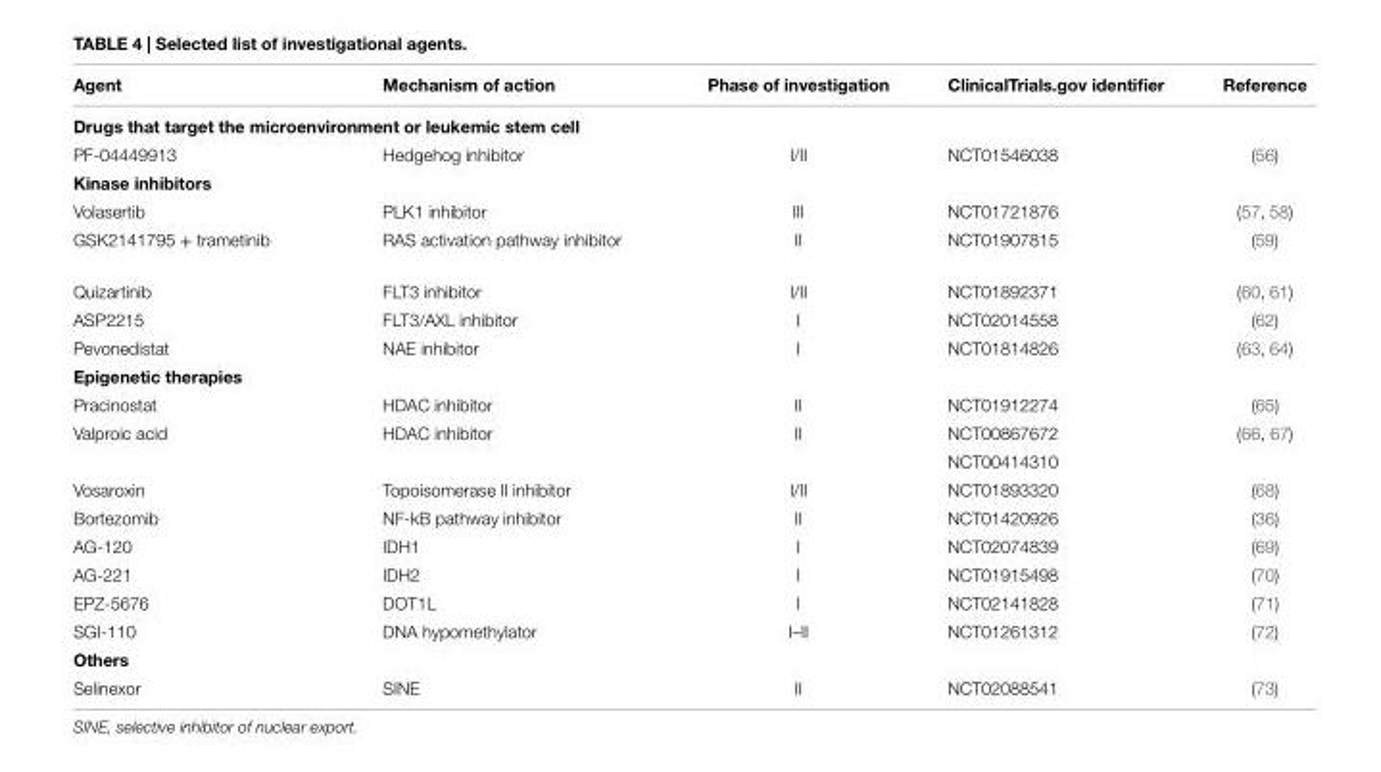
<table><thead><tr><td>Agent</td><td>Mechanism of action</td><td>Phase of investigation</td><td>ClinicalTrials.gov identifier</td><td>Reference</td></tr></thead><tbody><tr><td colspan="5">Drugs that target the microenvironment or leukemic stem cell</td></tr><tr><td>PF-04449913</td><td>Hedgehog inhibitor</td><td>I/II</td><td>NCT01546038</td><td>(56)</td></tr><tr><td colspan="5">Kinase inhibitors</td></tr><tr><td>Volasertib</td><td>PLK1 inhibitor</td><td>III</td><td>NCT01721876</td><td>(57, 58)</td></tr><tr><td>GSK2141795 + trametinib</td><td>RAS activation pathway inhibitor</td><td>II</td><td>NCT01907815</td><td>(59)</td></tr><tr><td>Quizartinib</td><td>FLT3 inhibitor</td><td>I/II</td><td>NCT01892371</td><td>(60, 61)</td></tr><tr><td>ASP2215</td><td>FLT3/AXL inhibitor</td><td>I</td><td>NCT02014558</td><td>(62)</td></tr><tr><td>Pevonedistat</td><td>NAE inhibitor</td><td>I</td><td>NCT01814826</td><td>(63, 64)</td></tr><tr><td colspan="5">epigenetic therapies</td></tr><tr><td>Pracinostat</td><td>HDAC inhibitor</td><td>II</td><td>NCT01912274</td><td>(65)</td></tr><tr><td rowspan="2">Valproic acid</td><td>HDAC inhibitor</td><td>II</td><td>NCT00867672</td><td>(66, 67)</td></tr><tr><td></td><td></td><td>NCT00414310</td><td></td></tr><tr><td>Vosaroxin</td><td>Topoisomerase II inhibitor</td><td>I/II</td><td>NCT01893320</td><td>(68)</td></tr><tr><td>Bortezomib</td><td>NF-kB pathway inhibitor</td><td>II</td><td>NCT01420926</td><td>(36)</td></tr><tr><td>AG-120</td><td>IDH1</td><td>I</td><td>NCT02074839</td><td>(69)</td></tr><tr><td>AG-221</td><td>IDH2</td><td>I</td><td>NCT01915498</td><td>(70)</td></tr><tr><td>EPZ-5676</td><td>DOT1L</td><td>I</td><td>NCT02141828</td><td>(71)</td></tr><tr><td>SGI-110</td><td>DNA hypomethylator</td><td>I–II</td><td>NCT01261312</td><td>(72)</td></tr><tr><td colspan="5">Others</td></tr><tr><td>Selinexor</td><td>SINE</td><td>II</td><td>NCT02088541</td><td>(73)</td></tr></tbody></table>